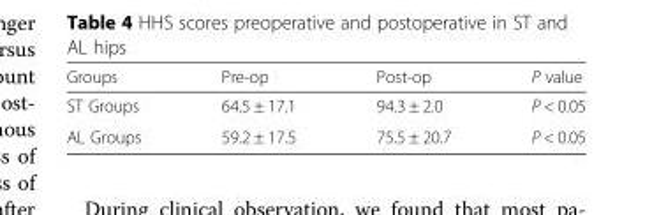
<table><thead><tr><td>Groups</td><td>Pre-op</td><td>Post-op</td><td>P value</td></tr></thead><tbody><tr><td>ST Groups</td><td>64.5 ± 17.1</td><td>94.3 ± 2.0</td><td>P &lt; 0.05</td></tr><tr><td>AL Groups</td><td>59.2 ± 17.5</td><td>75.5 ± 20.7</td><td>P &lt; 0.05</td></tr></tbody></table>